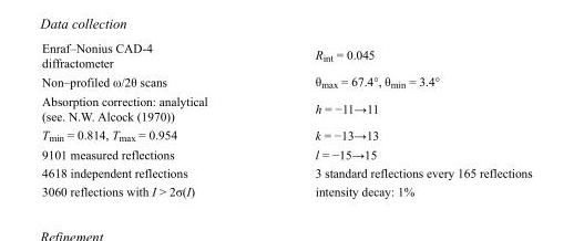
<table><tbody><tr><td>Enraf–Nonius CAD-4 diffractometer</td><td>R<sub>int</sub> = 0.045</td></tr><tr><td>Non–profiled ω/2θ scans</td><td>θ<sub>max</sub> = 67.4°, θ<sub>min</sub> = 3.4°</td></tr><tr><td>Absorption correction: analytical (see. N.W. Alcock (1970))</td><td>h = −11→11</td></tr><tr><td>T<sub>min</sub> = 0.814, T<sub>max</sub> = 0.954</td><td>k = −13→13</td></tr><tr><td>9101 measured reflections</td><td>l = −15→15</td></tr><tr><td>4618 independent reflections</td><td>3 standard reflections every 165 reflections</td></tr><tr><td>3060 reflections with I &gt; 2σ(I)</td><td>intensity decay: 1%</td></tr></tbody></table>